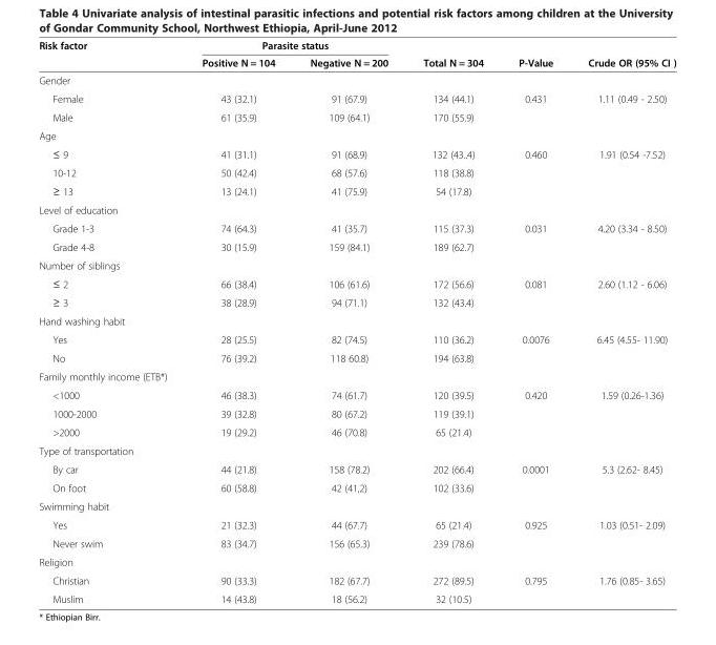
<table><thead><tr><td rowspan="2">Risk factor</td><td colspan="2">Parasite status</td><td rowspan="2">Total N = 304</td><td rowspan="2">P-Value</td><td rowspan="2">Crude OR (95% CI )</td></tr><tr><td>Positive N = 104</td><td>Negative N = 200</td></tr></thead><tbody><tr><td colspan="6">Gender</td></tr><tr><td>Female</td><td>43 (32.1)</td><td>91 (67.9)</td><td>134 (44.1)</td><td rowspan="2">0.431</td><td rowspan="2">1.11 (0.49 - 2.50)</td></tr><tr><td>Male</td><td>61 (35.9)</td><td>109 (64.1)</td><td>170 (55.9)</td></tr><tr><td colspan="6">Age</td></tr><tr><td>≤ 9</td><td>41 (31.1)</td><td>91 (68.9)</td><td>132 (43..4)</td><td rowspan="3">0.460</td><td rowspan="3">1.91 (0.54 -7.52)</td></tr><tr><td>10-12</td><td>50 (42.4)</td><td>68 (57.6)</td><td>118 (38.8)</td></tr><tr><td>≥ 13</td><td>13 (24.1)</td><td>41 (75.9)</td><td>54 (17.8)</td></tr><tr><td colspan="6">Level of education</td></tr><tr><td>Grade 1-3</td><td>74 (64.3)</td><td>41 (35.7)</td><td>115 (37.3)</td><td rowspan="2">0.031</td><td rowspan="2">4.20 (3.34 - 8.50)</td></tr><tr><td>Grade 4-8</td><td>30 (15.9)</td><td>159 (84.1)</td><td>189 (62.7)</td></tr><tr><td colspan="6">Number of siblings</td></tr><tr><td>≤ 2</td><td>66 (38.4)</td><td>106 (61.6)</td><td>172 (56.6)</td><td rowspan="2">0.081</td><td rowspan="2">2.60 (1.12 - 6.06)</td></tr><tr><td>≥ 3</td><td>38 (28.9)</td><td>94 (71.1)</td><td>132 (43.4)</td></tr><tr><td colspan="6">Hand washing habit</td></tr><tr><td>Yes</td><td>28 (25.5)</td><td>82 (74.5)</td><td>110 (36.2)</td><td>0.0076</td><td>6.45 (4.55- 11.90)</td></tr><tr><td>No</td><td>76 (39.2)</td><td>118 60.8)</td><td>194 (63.8)</td><td></td><td></td></tr><tr><td colspan="6">Family monthly income (ETB*)</td></tr><tr><td>&lt;1000</td><td>46 (38.3)</td><td>74 (61.7)</td><td>120 (39.5)</td><td rowspan="3">0.420</td><td rowspan="3">1.59 (0.26-1.36)</td></tr><tr><td>1000-2000</td><td>39 (32.8)</td><td>80 (67.2)</td><td>119 (39.1)</td></tr><tr><td>&gt;2000</td><td>19 (29.2)</td><td>46 (70.8)</td><td>65 (21.4)</td></tr><tr><td colspan="6">Type of transportation</td></tr><tr><td>By car</td><td>44 (21.8)</td><td>158 (78.2)</td><td>202 (66.4)</td><td rowspan="2">0.0001</td><td rowspan="2">5.3 (2.62- 8.45)</td></tr><tr><td>On foot</td><td>60 (58.8)</td><td>42 (41,2)</td><td>102 (33.6)</td></tr><tr><td colspan="6">Swimming habit</td></tr><tr><td>Yes</td><td>21 (32.3)</td><td>44 (67.7)</td><td>65 (21.4)</td><td rowspan="2">0.925</td><td rowspan="2">1.03 (0.51- 2.09)</td></tr><tr><td>Never swim</td><td>83 (34.7)</td><td>156 (65.3)</td><td>239 (78.6)</td></tr><tr><td colspan="6">Religion</td></tr><tr><td>Christian</td><td>90 (33.3)</td><td>182 (67.7)</td><td>272 (89.5)</td><td rowspan="2">0.795</td><td rowspan="2">1.76 (0.85- 3.65)</td></tr><tr><td>Muslim</td><td>14 (43.8)</td><td>18 (56.2)</td><td>32 (10.5)</td></tr></tbody></table>